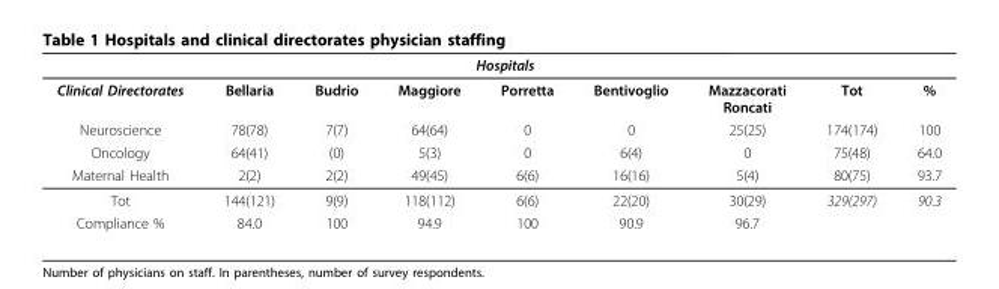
<table><thead><tr><td rowspan="2">Clinical Directorates</td><td colspan="6">Hospitals</td><td rowspan="2">Tot</td><td rowspan="2">%</td></tr><tr><td>Bellaria</td><td>Budrio</td><td>Maggiore</td><td>Porretta</td><td>Bentivoglio</td><td>Mazzacorati Roncati</td></tr></thead><tbody><tr><td>Neuroscience</td><td>78(78)</td><td>7(7)</td><td>64(64)</td><td>0</td><td>0</td><td>25(25)</td><td>174(174)</td><td>100</td></tr><tr><td>Oncology</td><td>64(41)</td><td>(0)</td><td>5(3)</td><td>0</td><td>6(4)</td><td>0</td><td>75(48)</td><td>64.0</td></tr><tr><td>Maternal Health</td><td>2(2)</td><td>2(2)</td><td>49(45)</td><td>6(6)</td><td>16(16)</td><td>5(4)</td><td>80(75)</td><td>93.7</td></tr><tr><td>Tot</td><td>144(121)</td><td>9(9)</td><td>118(112)</td><td>6(6)</td><td>22(20)</td><td>30(29)</td><td>329(297)</td><td>90.3</td></tr><tr><td>Compliance %</td><td>84.0</td><td>100</td><td>94.9</td><td>100</td><td>90.9</td><td>96.7</td><td></td><td></td></tr></tbody></table>